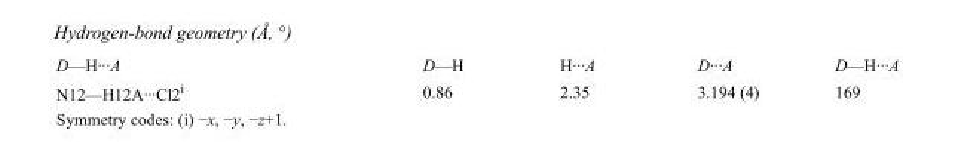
<table><tbody><tr><td>D—H···A</td><td>D—H</td><td>H···A</td><td>D···A</td><td>D—H···A</td></tr><tr><td>N12—H12A···Cl2<sup>i</sup></td><td>0.86</td><td>2.35</td><td>3.194 (4)</td><td>169</td></tr></tbody></table>